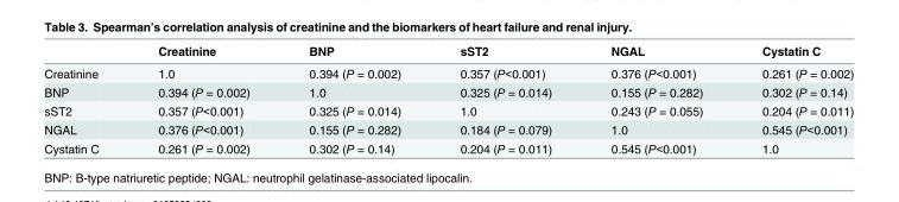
<table><thead><tr><td></td><td>Creatinine</td><td>BNP</td><td>sST2</td><td>NGAL</td><td>Cystatin C</td></tr></thead><tbody><tr><td>Creatinine</td><td>1.0</td><td>0.394 (P = 0.002)</td><td>0.357 (P&lt;0.001)</td><td>0.376 (P&lt;0.001)</td><td>0.261 (P = 0.002)</td></tr><tr><td>BNP</td><td>0.394 (P = 0.002)</td><td>1.0</td><td>0.325 (P = 0.014)</td><td>0.155 (P = 0.282)</td><td>0.302 (P = 0.14)</td></tr><tr><td>sST2</td><td>0.357 (P&lt;0.001)</td><td>0.325 (P = 0.014)</td><td>1.0</td><td>0.243 (P = 0.055)</td><td>0.204 (P = 0.011)</td></tr><tr><td>NGAL</td><td>0.376 (P&lt;0.001)</td><td>0.155 (P = 0.282)</td><td>0.184 (P = 0.079)</td><td>1.0</td><td>0.545 (P&lt;0.001)</td></tr><tr><td>Cystatin C</td><td>0.261 (P = 0.002)</td><td>0.302 (P = 0.14)</td><td>0.204 (P = 0.011)</td><td>0.545 (P&lt;0.001)</td><td>1.0</td></tr></tbody></table>